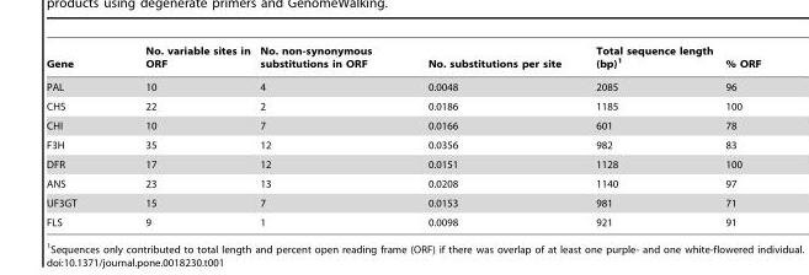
<table><thead><tr><td>Gene</td><td>No. variable sites in ORF</td><td>No. non-synonymous substitutions in ORF</td><td>No. substitutions per site</td><td>Total sequence length (bp)<sup>1</sup></td><td>% ORF</td></tr></thead><tbody><tr><td>PAL</td><td>10</td><td>4</td><td>0.0048</td><td>2085</td><td>96</td></tr><tr><td>CHS</td><td>22</td><td>2</td><td>0.0186</td><td>1185</td><td>100</td></tr><tr><td>CHI</td><td>10</td><td>7</td><td>0.0166</td><td>601</td><td>78</td></tr><tr><td>F3H</td><td>35</td><td>12</td><td>0.0356</td><td>982</td><td>83</td></tr><tr><td>DFR</td><td>17</td><td>12</td><td>0.0151</td><td>1128</td><td>100</td></tr><tr><td>ANS</td><td>23</td><td>13</td><td>0.0208</td><td>1140</td><td>97</td></tr><tr><td>UF3GT</td><td>15</td><td>7</td><td>0.0153</td><td>981</td><td>71</td></tr><tr><td>FLS</td><td>9</td><td>1</td><td>0.0098</td><td>921</td><td>91</td></tr></tbody></table>